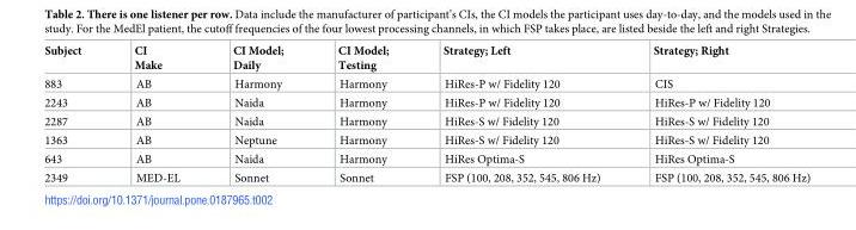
<table><thead><tr><td>Subject</td><td>CI Make</td><td>CI Model; Daily</td><td>CI Model; Testing</td><td>Strategy; Left</td><td>Strategy; Right</td></tr></thead><tbody><tr><td>883</td><td>AB</td><td>Harmony</td><td>Harmony</td><td>HiRes-P w/ Fidelity 120</td><td>CIS</td></tr><tr><td>2243</td><td>AB</td><td>Naida</td><td>Harmony</td><td>HiRes-P w/ Fidelity 120</td><td>HiRes-P w/ Fidelity 120</td></tr><tr><td>2287</td><td>AB</td><td>Naida</td><td>Harmony</td><td>HiRes-S w/ Fidelity 120</td><td>HiRes-S w/ Fidelity 120</td></tr><tr><td>1363</td><td>AB</td><td>Neptune</td><td>Harmony</td><td>HiRes-S w/ Fidelity 120</td><td>HiRes-S w/ Fidelity 120</td></tr><tr><td>643</td><td>AB</td><td>Naida</td><td>Harmony</td><td>HiRes Optima-S</td><td>HiRes Optima-S</td></tr><tr><td>2349</td><td>MED-EL</td><td>Sonnet</td><td>Sonnet</td><td>FSP (100, 208, 352, 545, 806 Hz)</td><td>FSP (100, 208, 352, 545, 806 Hz)</td></tr></tbody></table>